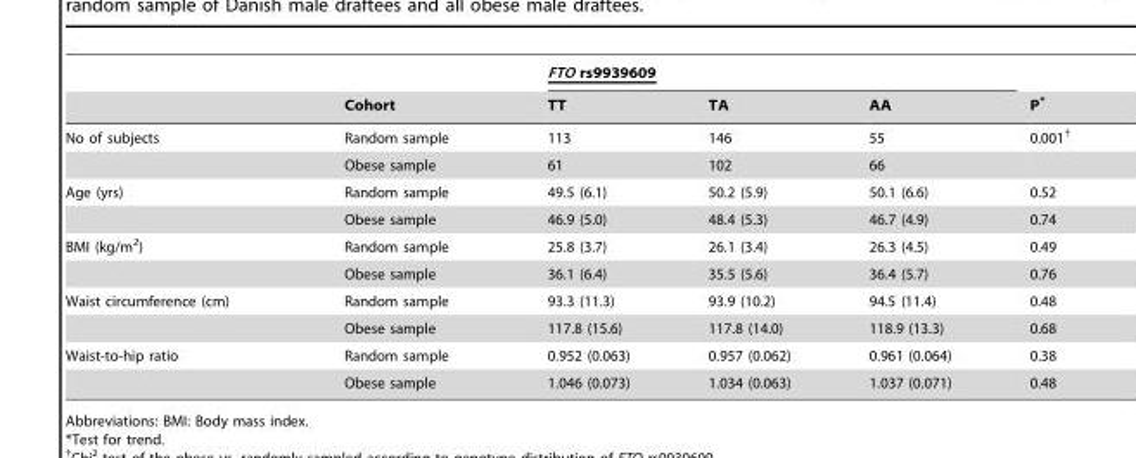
<table><thead><tr><td rowspan="2"></td><td rowspan="2">Cohort</td><td colspan="3">FTO rs9939609</td><td rowspan="2">P*</td></tr><tr><td>TT</td><td>TA</td><td>AA</td></tr></thead><tbody><tr><td rowspan="2">No of subjects</td><td>Random sample</td><td>113</td><td>146</td><td>55</td><td>0.001†</td></tr><tr><td>Obese sample</td><td>61</td><td>102</td><td>66</td><td></td></tr><tr><td rowspan="2">Age (yrs)</td><td>Random sample</td><td>49.5 (6.1)</td><td>50.2 (5.9)</td><td>50.1 (6.6)</td><td>0.52</td></tr><tr><td>Obese sample</td><td>46.9 (5.0)</td><td>48.4 (5.3)</td><td>46.7 (4.9)</td><td>0.74</td></tr><tr><td rowspan="2">BMI (kg/m<sup>2</sup>)</td><td>Random sample</td><td>25.8 (3.7)</td><td>26.1 (3.4)</td><td>26.3 (4.5)</td><td>0.49</td></tr><tr><td>Obese sample</td><td>36.1 (6.4)</td><td>35.5 (5.6)</td><td>36.4 (5.7)</td><td>0.76</td></tr><tr><td rowspan="2">Waist circumference (cm)</td><td>Random sample</td><td>93.3 (11.3)</td><td>93.9 (10.2)</td><td>94.5 (11.4)</td><td>0.48</td></tr><tr><td>Obese sample</td><td>117.8 (15.6)</td><td>117.8 (14.0)</td><td>118.9 (13.3)</td><td>0.68</td></tr><tr><td rowspan="2">Waist-to-hip ratio</td><td>Random sample</td><td>0.952 (0.063)</td><td>0.957 (0.062)</td><td>0.961 (0.064)</td><td>0.38</td></tr><tr><td>Obese sample</td><td>1.046 (0.073)</td><td>1.034 (0.063)</td><td>1.037 (0.071)</td><td>0.48</td></tr></tbody></table>